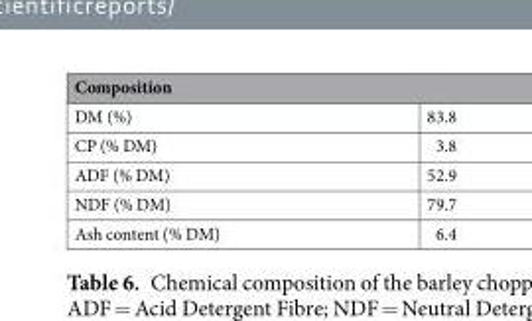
<table><thead><tr><td colspan="2">Composition</td></tr><tr><td>DM (%)</td><td>83.8</td></tr></thead><tbody><tr><td>CP (% DM)</td><td>3.8</td></tr><tr><td>ADF (% DM)</td><td>52.9</td></tr><tr><td>NDF (% DM)</td><td>79.7</td></tr><tr><td>Ash content (% DM)</td><td>6.4</td></tr></tbody></table>